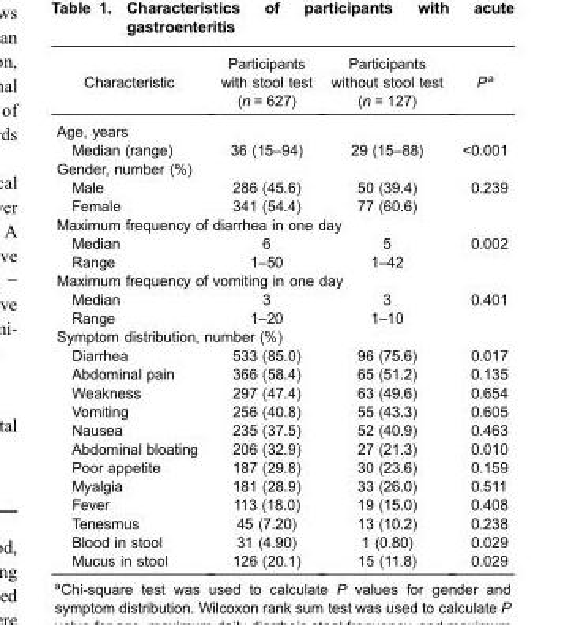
<table><thead><tr><td>Characteristic</td><td>Participants with stool test (n = 627)</td><td>Participants without stool test (n = 127)</td><td>P<sup>a</sup></td></tr></thead><tbody><tr><td colspan="4">Age, years</td></tr><tr><td>Median (range)</td><td>36 (15–94)</td><td>29 (15–88)</td><td>&lt;0.001</td></tr><tr><td colspan="4">Gender, number (%)</td></tr><tr><td>Male</td><td>286 (45.6)</td><td>50 (39.4)</td><td>0.239</td></tr><tr><td>Female</td><td>341 (54.4)</td><td>77 (60.6)</td><td></td></tr><tr><td colspan="4">Maximum frequency of diarrhea in one day</td></tr><tr><td>Median</td><td>6</td><td>5</td><td>0.002</td></tr><tr><td>Range</td><td>1–50</td><td>1–42</td><td></td></tr><tr><td colspan="4">Maximum frequency of vomiting in one day</td></tr><tr><td>Median</td><td>3</td><td>3</td><td>0.401</td></tr><tr><td>Range</td><td>1–20</td><td>1–10</td><td></td></tr><tr><td colspan="4">Symptom distribution, number (%)</td></tr><tr><td>Diarrhea</td><td>533 (85.0)</td><td>96 (75.6)</td><td>0.017</td></tr><tr><td>Abdominal pain</td><td>366 (58.4)</td><td>65 (51.2)</td><td>0.135</td></tr><tr><td>Weakness</td><td>297 (47.4)</td><td>63 (49.6)</td><td>0.654</td></tr><tr><td>Vomiting</td><td>256 (40.8)</td><td>55 (43.3)</td><td>0.605</td></tr><tr><td>Nausea</td><td>235 (37.5)</td><td>52 (40.9)</td><td>0.463</td></tr><tr><td>Abdominal bloating</td><td>206 (32.9)</td><td>27 (21.3)</td><td>0.010</td></tr><tr><td>Poor appetite</td><td>187 (29.8)</td><td>30 (23.6)</td><td>0.159</td></tr><tr><td>Myalgia</td><td>181 (28.9)</td><td>33 (26.0)</td><td>0.511</td></tr><tr><td>Fever</td><td>113 (18.0)</td><td>19 (15.0)</td><td>0.408</td></tr><tr><td>Tenesmus</td><td>45 (7.20)</td><td>13 (10.2)</td><td>0.238</td></tr><tr><td>Blood in stool</td><td>31 (4.90)</td><td>1 (0.80)</td><td>0.029</td></tr><tr><td>Mucus in stool</td><td>126 (20.1)</td><td>15 (11.8)</td><td>0.029</td></tr></tbody></table>